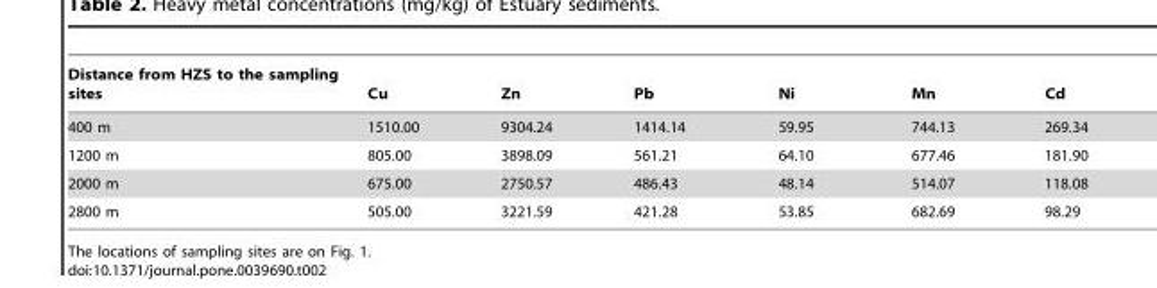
<table><thead><tr><td>Distance from HZS to the sampling sites</td><td>Cu</td><td>Zn</td><td>Pb</td><td>Ni</td><td>Mn</td><td>Cd</td></tr></thead><tbody><tr><td>400 m</td><td>1510.00</td><td>9304.24</td><td>1414.14</td><td>59.95</td><td>744.13</td><td>269.34</td></tr><tr><td>1200 m</td><td>805.00</td><td>3898.09</td><td>561.21</td><td>64.10</td><td>677.46</td><td>181.90</td></tr><tr><td>2000 m</td><td>675.00</td><td>2750.57</td><td>486.43</td><td>48.14</td><td>514.07</td><td>118.08</td></tr><tr><td>2800 m</td><td>505.00</td><td>3221.59</td><td>421.28</td><td>53.85</td><td>682.69</td><td>98.29</td></tr></tbody></table>